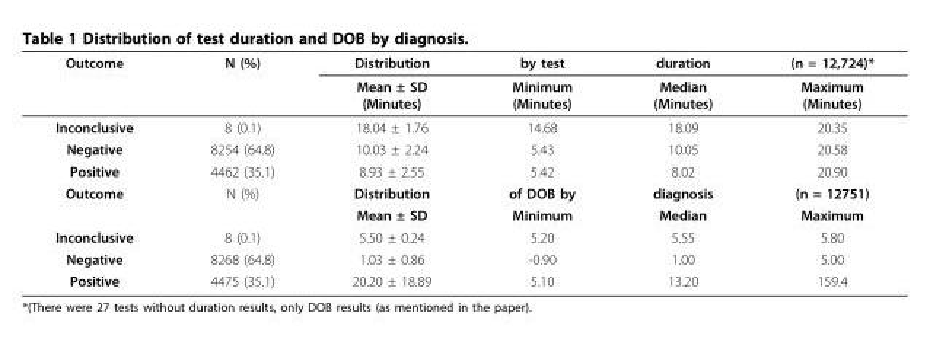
<table><thead><tr><td rowspan="2">Outcome</td><td rowspan="2">N (%)</td><td rowspan="2">Distribution Mean ± SD (Minutes)</td><td rowspan="2">by test Minimum (Minutes)</td><td rowspan="2">duration Median (Minutes)</td><td rowspan="2">(n = 12,724)* Maximum (Minutes)</td></tr><tr></tr></thead><tbody><tr><td>Inconclusive</td><td>8 (0.1)</td><td>18.04 ± 1.76</td><td>14.68</td><td>18.09</td><td>20.35</td></tr><tr><td>Negative</td><td>8254 (64.8)</td><td>10.03 ± 2.24</td><td>5.43</td><td>10.05</td><td>20.58</td></tr><tr><td>Positive</td><td>4462 (35.1)</td><td>8.93 ± 2.55</td><td>5.42</td><td>8.02</td><td>20.90</td></tr><tr><td rowspan="2">Outcome</td><td>N (%)</td><td>Distribution</td><td>of DOB by</td><td>diagnosis</td><td>(n = 12751)</td></tr><tr><td></td><td>Mean ± SD</td><td>Minimum</td><td>Median</td><td>Maximum</td></tr><tr><td>Inconclusive</td><td>8 (0.1)</td><td>5.50 ± 0.24</td><td>5.20</td><td>5.55</td><td>5.80</td></tr><tr><td>Negative</td><td>8268 (64.8)</td><td>1.03 ± 0.86</td><td>-0.90</td><td>1.00</td><td>5.00</td></tr><tr><td>Positive</td><td>4475 (35.1)</td><td>20.20 ± 18.89</td><td>5.10</td><td>13.20</td><td>159.4</td></tr></tbody></table>